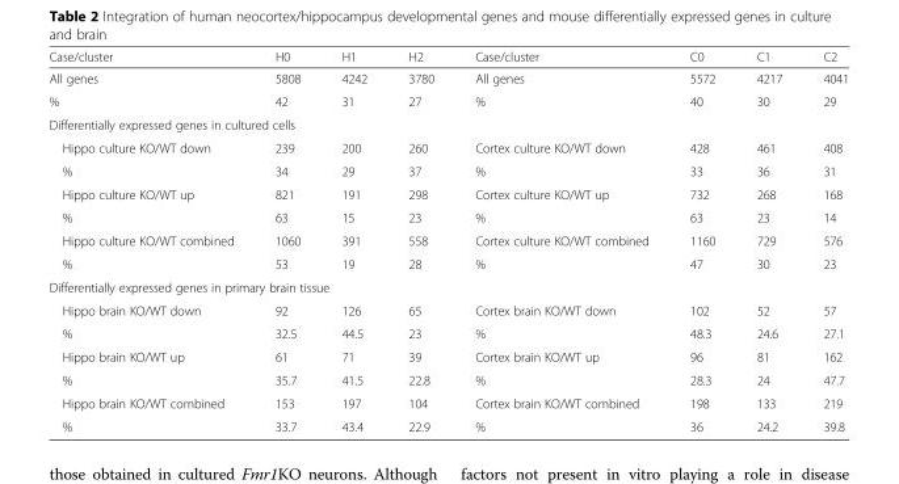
<table><thead><tr><td>Case/cluster</td><td>H0</td><td>H1</td><td>H2</td><td>Case/cluster</td><td>C0</td><td>C1</td><td>C2</td></tr></thead><tbody><tr><td>All genes</td><td>5808</td><td>4242</td><td>3780</td><td>All genes</td><td>5572</td><td>4217</td><td>4041</td></tr><tr><td>%</td><td>42</td><td>31</td><td>27</td><td>%</td><td>40</td><td>30</td><td>29</td></tr><tr><td colspan="8">Differentially expressed genes in cultured cells</td></tr><tr><td>Hippo culture KO/WT down</td><td>239</td><td>200</td><td>260</td><td>Cortex culture KO/WT down</td><td>428</td><td>461</td><td>408</td></tr><tr><td>%</td><td>34</td><td>29</td><td>37</td><td>%</td><td>33</td><td>36</td><td>31</td></tr><tr><td>Hippo culture KO/WT up</td><td>821</td><td>191</td><td>298</td><td>Cortex culture KO/WT up</td><td>732</td><td>268</td><td>168</td></tr><tr><td>%</td><td>63</td><td>15</td><td>23</td><td>%</td><td>63</td><td>23</td><td>14</td></tr><tr><td>Hippo culture KO/WT combined</td><td>1060</td><td>391</td><td>558</td><td>Cortex culture KO/WT combined</td><td>1160</td><td>729</td><td>576</td></tr><tr><td>%</td><td>53</td><td>19</td><td>28</td><td>%</td><td>47</td><td>30</td><td>23</td></tr><tr><td colspan="8">Differentially expressed genes in primary brain tissue</td></tr><tr><td>Hippo brain KO/WT down</td><td>92</td><td>126</td><td>65</td><td>Cortex brain KO/WT down</td><td>102</td><td>52</td><td>57</td></tr><tr><td>%</td><td>32.5</td><td>44.5</td><td>23</td><td>%</td><td>48.3</td><td>24.6</td><td>27.1</td></tr><tr><td>Hippo brain KO/WT up</td><td>61</td><td>71</td><td>39</td><td>Cortex brain KO/WT up</td><td>96</td><td>81</td><td>162</td></tr><tr><td>%</td><td>35.7</td><td>41.5</td><td>22.8</td><td>%</td><td>28.3</td><td>24</td><td>47.7</td></tr><tr><td>Hippo brain KO/WT combined</td><td>153</td><td>197</td><td>104</td><td>Cortex brain KO/WT combined</td><td>198</td><td>133</td><td>219</td></tr><tr><td>%</td><td>33.7</td><td>43.4</td><td>22.9</td><td>%</td><td>36</td><td>24.2</td><td>39.8</td></tr></tbody></table>